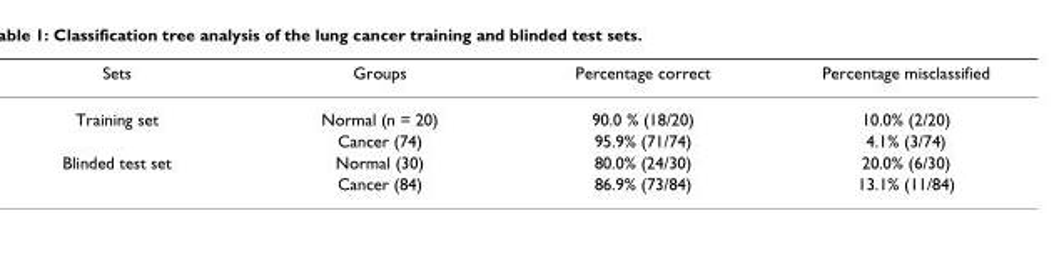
<table><thead><tr><td>Sets</td><td>Groups</td><td>Percentage correct</td><td>Percentage misclassified</td></tr></thead><tbody><tr><td rowspan="2">Training set</td><td>Normal (n = 20)</td><td>90.0 % (18/20)</td><td>10.0% (2/20)</td></tr><tr><td>Cancer (74)</td><td>95.9% (71/74)</td><td>4.1% (3/74)</td></tr><tr><td rowspan="2">Blinded test set</td><td>Normal (30)</td><td>80.0% (24/30)</td><td>20.0% (6/30)</td></tr><tr><td>Cancer (84)</td><td>86.9% (73/84)</td><td>13.1% (11/84)</td></tr></tbody></table>